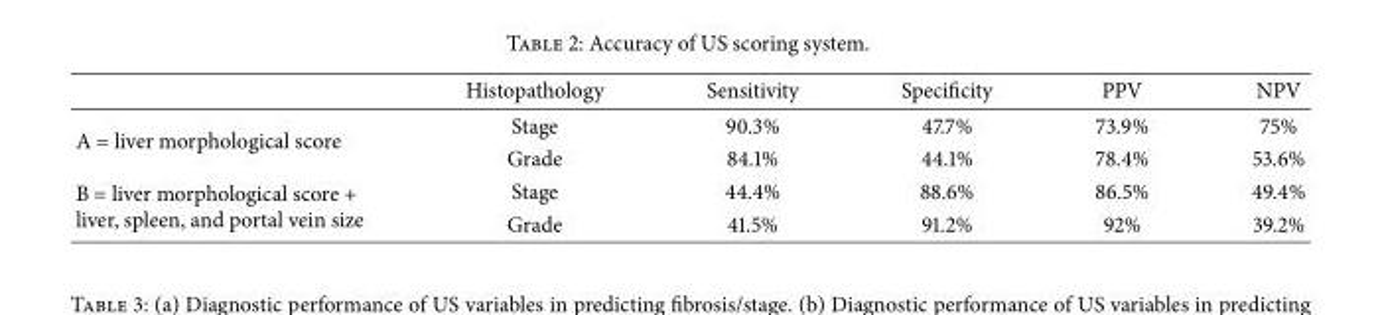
<table><thead><tr><td></td><td>Histopathology</td><td>Sensitivity</td><td>Specificity</td><td>PPV</td><td>NPV</td></tr></thead><tbody><tr><td rowspan="2">A = liver morphological score</td><td>Stage</td><td>90.3%</td><td>47.7%</td><td>73.9%</td><td>75%</td></tr><tr><td>Grade</td><td>84.1%</td><td>44.1%</td><td>78.4%</td><td>53.6%</td></tr><tr><td rowspan="2">B = liver morphological score + liver, spleen, and portal vein size</td><td>Stage</td><td>44.4%</td><td>88.6%</td><td>86.5%</td><td>49.4%</td></tr><tr><td>Grade</td><td>41.5%</td><td>91.2%</td><td>92%</td><td>39.2%</td></tr></tbody></table>